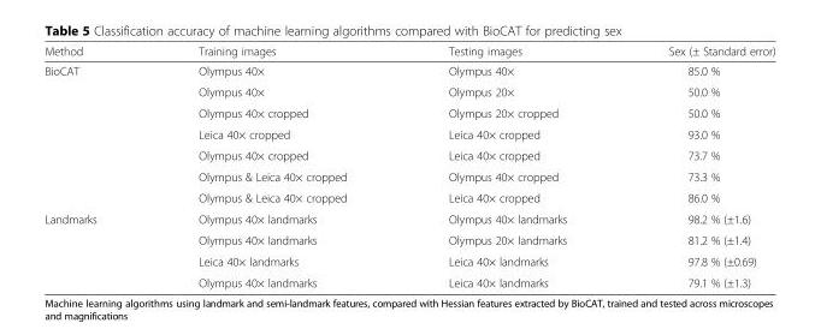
<table><thead><tr><td>Method</td><td>Training images</td><td>Testing images</td><td>Sex (± Standard error)</td></tr></thead><tbody><tr><td rowspan="7">BioCAT</td><td>Olympus 40×</td><td>Olympus 40×</td><td>85.0 %</td></tr><tr><td>Olympus 40×</td><td>Olympus 20×</td><td>50.0 %</td></tr><tr><td>Olympus 40× cropped</td><td>Olympus 20× cropped</td><td>50.0 %</td></tr><tr><td>Leica 40× cropped</td><td>Leica 40× cropped</td><td>93.0 %</td></tr><tr><td>Olympus 40× cropped</td><td>Leica 40× cropped</td><td>73.7 %</td></tr><tr><td>Olympus &amp; Leica 40× cropped</td><td>Olympus 40× cropped</td><td>73.3 %</td></tr><tr><td>Olympus &amp; Leica 40× cropped</td><td>Leica 40× cropped</td><td>86.0 %</td></tr><tr><td rowspan="4">Landmarks</td><td>Olympus 40× landmarks</td><td>Olympus 40× landmarks</td><td>98.2 % (±1.6)</td></tr><tr><td>Olympus 40× landmarks</td><td>Olympus 20× landmarks</td><td>81.2 % (±1.4)</td></tr><tr><td>Leica 40× landmarks</td><td>Leica 40× landmarks</td><td>97.8 % (±0.69)</td></tr><tr><td>Olympus 40× landmarks</td><td>Leica 40× landmarks</td><td>79.1 % (±1.3)</td></tr></tbody></table>